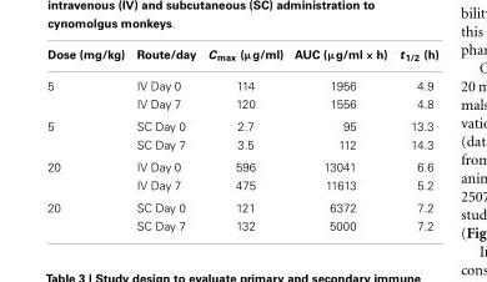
<table><thead><tr><td>Dose (mg/kg)</td><td>Route/day</td><td>C<sub>max</sub> (µg/ml)</td><td>AUC (µg/ml × h)</td><td>t<sub>1/2</sub> (h)</td></tr></thead><tbody><tr><td rowspan="2">5</td><td>IV Day 0</td><td>114</td><td>1956</td><td>4.9</td></tr><tr><td>IV Day 7</td><td>120</td><td>1556</td><td>4.8</td></tr><tr><td rowspan="2">5</td><td>SC Day 0</td><td>2.7</td><td>95</td><td>13.3</td></tr><tr><td>SC Day 7</td><td>3.5</td><td>112</td><td>14.3</td></tr><tr><td rowspan="2">20</td><td>IV Day 0</td><td>596</td><td>13041</td><td>6.6</td></tr><tr><td>IV Day 7</td><td>475</td><td>11613</td><td>5.2</td></tr><tr><td rowspan="2">20</td><td>SC Day 0</td><td>121</td><td>6372</td><td>7.2</td></tr><tr><td>SC Day 7</td><td>132</td><td>5000</td><td>7.2</td></tr></tbody></table>